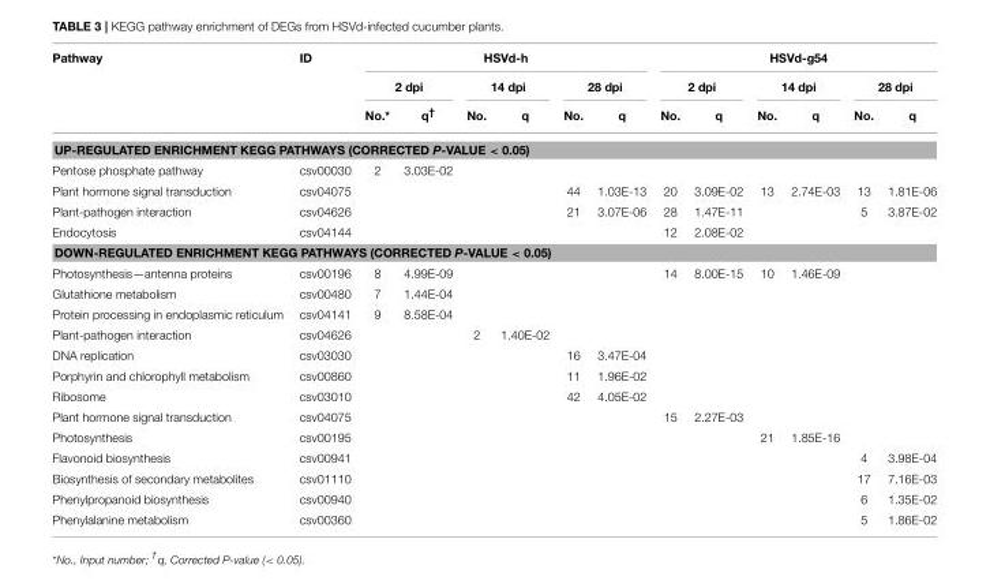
<table><thead><tr><td rowspan="3">Pathway</td><td rowspan="3">ID</td><td colspan="6">HSVd-h</td><td colspan="6">HSVd-g54</td></tr><tr><td colspan="2">2 dpi</td><td colspan="2">14 dpi</td><td colspan="2">28 dpi</td><td colspan="2">2 dpi</td><td colspan="2">14 dpi</td><td colspan="2">28 dpi</td></tr><tr><td>No.*</td><td>q<sup>†</sup></td><td>No.</td><td>q</td><td>No.</td><td>q</td><td>No.</td><td>q</td><td>No.</td><td>q</td><td>No.</td><td>q</td></tr></thead><tbody><tr><td colspan="14">UP-REGULATED ENRICHMENT KEGG PATHWAYS (CORRECTED P-VALUE &lt; 0.05)</td></tr><tr><td>Pentose phosphate pathway</td><td>csv00030</td><td>2</td><td>3.03E-02</td><td></td><td></td><td></td><td></td><td></td><td></td><td></td><td></td><td></td><td></td></tr><tr><td>Plant hormone signal transduction</td><td>csv04075</td><td></td><td></td><td></td><td></td><td>44</td><td>1.03E-13</td><td>20</td><td>3.09E-02</td><td>13</td><td>2.74E-03</td><td>13</td><td>1.81E-06</td></tr><tr><td>Plant-pathogen interaction</td><td>csv04626</td><td></td><td></td><td></td><td></td><td>21</td><td>3.07E-06</td><td>28</td><td>1.47E-11</td><td></td><td></td><td>5</td><td>3.87E-02</td></tr><tr><td>Endocytosis</td><td>csv04144</td><td></td><td></td><td></td><td></td><td></td><td></td><td>12</td><td>2.08E-02</td><td></td><td></td><td></td><td></td></tr><tr><td colspan="14">DOWN-REGULATED ENRICHMENT KEGG PATHWAYS (CORRECTED P-VALUE &lt; 0.05)</td></tr><tr><td>Photosynthesis—antenna proteins</td><td>csv00196</td><td>8</td><td>4.99E-09</td><td></td><td></td><td></td><td></td><td>14</td><td>8.00E-15</td><td>10</td><td>1.46E-09</td><td></td><td></td></tr><tr><td>Glutathione metabolism</td><td>csv00480</td><td>7</td><td>1.44E-04</td><td></td><td></td><td></td><td></td><td></td><td></td><td></td><td></td><td></td><td></td></tr><tr><td>Protein processing in endoplasmic reticulum</td><td>csv04141</td><td>9</td><td>8.58E-04</td><td></td><td></td><td></td><td></td><td></td><td></td><td></td><td></td><td></td><td></td></tr><tr><td>Plant-pathogen interaction</td><td>csv04626</td><td></td><td></td><td>2</td><td>1.40E-02</td><td></td><td></td><td></td><td></td><td></td><td></td><td></td><td></td></tr><tr><td>DNA replication</td><td>csv03030</td><td></td><td></td><td></td><td></td><td>16</td><td>3.47E-04</td><td></td><td></td><td></td><td></td><td></td><td></td></tr><tr><td>Porphyrin and chlorophyll metabolism</td><td>csv00860</td><td></td><td></td><td></td><td></td><td>11</td><td>1.96E-02</td><td></td><td></td><td></td><td></td><td></td><td></td></tr><tr><td>Ribosome</td><td>csv03010</td><td></td><td></td><td></td><td></td><td>42</td><td>4.05E-02</td><td></td><td></td><td></td><td></td><td></td><td></td></tr><tr><td>Plant hormone signal transduction</td><td>csv04075</td><td></td><td></td><td></td><td></td><td></td><td></td><td>15</td><td>2.27E-03</td><td></td><td></td><td></td><td></td></tr><tr><td>Photosynthesis</td><td>csv00195</td><td></td><td></td><td></td><td></td><td></td><td></td><td></td><td></td><td>21</td><td>1.85E-16</td><td></td><td></td></tr><tr><td>Flavonoid biosynthesis</td><td>csv00941</td><td></td><td></td><td></td><td></td><td></td><td></td><td></td><td></td><td></td><td></td><td>4</td><td>3.98E-04</td></tr><tr><td>Biosynthesis of secondary metabolites</td><td>csv01110</td><td></td><td></td><td></td><td></td><td></td><td></td><td></td><td></td><td></td><td></td><td>17</td><td>7.16E-03</td></tr><tr><td>Phenylpropanoid biosynthesis</td><td>csv00940</td><td></td><td></td><td></td><td></td><td></td><td></td><td></td><td></td><td></td><td></td><td>6</td><td>1.35E-02</td></tr><tr><td>Phenylalanine metabolism</td><td>csv00360</td><td></td><td></td><td></td><td></td><td></td><td></td><td></td><td></td><td></td><td></td><td>5</td><td>1.86E-02</td></tr></tbody></table>